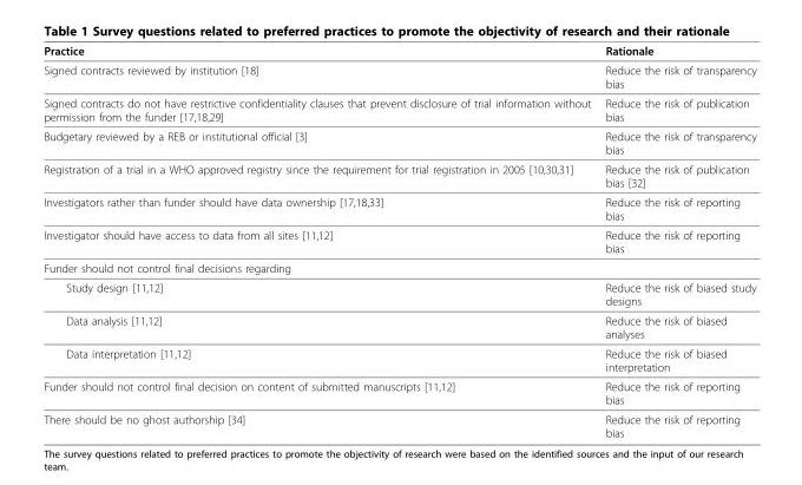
<table><thead><tr><td>Practice</td><td>Rationale</td></tr></thead><tbody><tr><td>Signed contracts reviewed by institution [18]</td><td>Reduce the risk of transparency bias</td></tr><tr><td>Signed contracts do not have restrictive confidentiality clauses that prevent disclosure of trial information without permission from the funder [17,18,29]</td><td>Reduce the risk of publication bias</td></tr><tr><td>Budgetary reviewed by a REB or institutional official [3]</td><td>Reduce the risk of transparency bias</td></tr><tr><td>Registration of a trial in a WHO approved registry since the requirement for trial registration in 2005 [10,30,31]</td><td>Reduce the risk of publication bias [32]</td></tr><tr><td>Investigators rather than funder should have data ownership [17,18,33]</td><td>Reduce the risk of reporting bias</td></tr><tr><td>Investigator should have access to data from all sites [11,12]</td><td>Reduce the risk of reporting bias</td></tr><tr><td colspan="2">Funder should not control final decisions regarding</td></tr><tr><td>Study design [11,12]</td><td>Reduce the risk of biased study designs</td></tr><tr><td>Data analysis [11,12]</td><td>Reduce the risk of biased analyses</td></tr><tr><td>Data interpretation [11,12]</td><td>Reduce the risk of biased interpretation</td></tr><tr><td>Funder should not control final decision on content of submitted manuscripts [11,12]</td><td>Reduce the risk of reporting bias</td></tr><tr><td>There should be no ghost authorship [34]</td><td>Reduce the risk of reporting bias</td></tr></tbody></table>